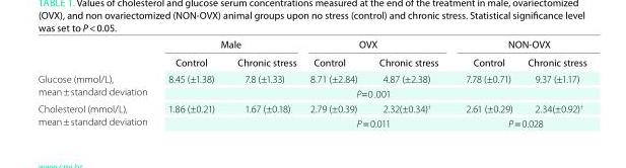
<table><thead><tr><td rowspan="2"></td><td colspan="2">Male</td><td colspan="2">oVX</td><td colspan="2">non-oVX</td></tr><tr><td>Control</td><td>Chronic stress</td><td>Control</td><td>Chronic stress</td><td>Control</td><td>Chronic stress</td></tr></thead><tbody><tr><td rowspan="2">Glucose (mmol/L), mean ± standard deviation</td><td rowspan="2">8.45 (±1.38)</td><td rowspan="2">7.8 (±1.33)</td><td>8.71 (±2.84)</td><td>4.87 (±2.38)</td><td rowspan="2">7.78 (±0.71)</td><td rowspan="2">9.37 (±1.17)</td></tr><tr><td colspan="2">P=0 .001</td></tr><tr><td rowspan="2">Cholesterol (mmol/L), mean ± standard deviation</td><td rowspan="2">1.86 (±0.21)</td><td rowspan="2">1.67 (±0.18)</td><td>2.79 (±0.39)</td><td>2.32(±0.34)†</td><td>2.61 (±0.29)</td><td>2.34(±0.92)†</td></tr><tr><td colspan="2">P = 0.011</td><td colspan="2">P = 0.028</td></tr></tbody></table>